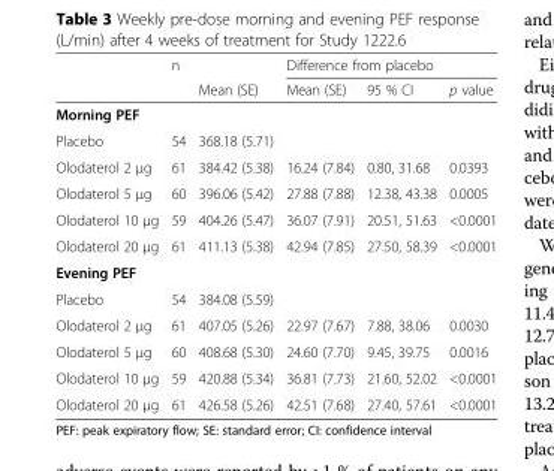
<table><thead><tr><td rowspan="2"></td><td rowspan="2">n</td><td rowspan="2">Mean (SE)</td><td colspan="3">Difference from placebo</td></tr><tr><td>Mean (SE)</td><td>95 % CI</td><td>p value</td></tr></thead><tbody><tr><td colspan="6">Morning PEF</td></tr><tr><td>Placebo</td><td>54</td><td>368.18 (5.71)</td><td></td><td></td><td></td></tr><tr><td>Olodaterol 2 μg</td><td>61</td><td>384.42 (5.38)</td><td>16.24 (7.84)</td><td>0.80, 31.68</td><td>0.0393</td></tr><tr><td>Olodaterol 5 μg</td><td>60</td><td>396.06 (5.42)</td><td>27.88 (7.88)</td><td>12.38, 43.38</td><td>0.0005</td></tr><tr><td>Olodaterol 10 μg</td><td>59</td><td>404.26 (5.47)</td><td>36.07 (7.91)</td><td>20.51, 51.63</td><td>&lt;0.0001</td></tr><tr><td>Olodaterol 20 μg</td><td>61</td><td>411.13 (5.38)</td><td>42.94 (7.85)</td><td>27.50, 58.39</td><td>&lt;0.0001</td></tr><tr><td colspan="6">Evening PEF</td></tr><tr><td>Placebo</td><td>54</td><td>384.08 (5.59)</td><td></td><td></td><td></td></tr><tr><td>Olodaterol 2 μg</td><td>61</td><td>407.05 (5.26)</td><td>22.97 (7.67)</td><td>7.88, 38.06</td><td>0.0030</td></tr><tr><td>Olodaterol 5 μg</td><td>60</td><td>408.68 (5.30)</td><td>24.60 (7.70)</td><td>9.45, 39.75</td><td>0.0016</td></tr><tr><td>Olodaterol 10 μg</td><td>59</td><td>420.88 (5.34)</td><td>36.81 (7.73)</td><td>21.60, 52.02</td><td>&lt;0.0001</td></tr><tr><td>Olodaterol 20 μg</td><td>61</td><td>426.58 (5.26)</td><td>42.51 (7.68)</td><td>27.40, 57.61</td><td>&lt;0.0001</td></tr></tbody></table>